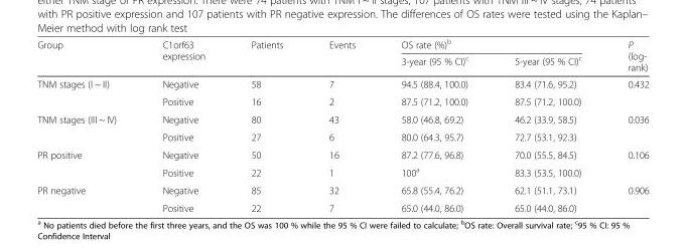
<table><thead><tr><td rowspan="2">Group</td><td rowspan="2">C1orf63 expression</td><td rowspan="2">Patients</td><td rowspan="2">Events</td><td colspan="2">OS rate (%)<sup>b</sup></td><td rowspan="2">P (log- rank)</td></tr><tr><td>3-year (95 % CI)<sup>c</sup></td><td>5-year (95 % CI)<sup>c</sup></td></tr></thead><tbody><tr><td rowspan="2">TNM stages (I ~ II)</td><td>Negative</td><td>58</td><td>7</td><td>94.5 (88.4, 100.0)</td><td>83.4 (71.6, 95.2)</td><td>0.432</td></tr><tr><td>Positive</td><td>16</td><td>2</td><td>87.5 (71.2, 100.0)</td><td>87.5 (71.2, 100.0)</td><td></td></tr><tr><td rowspan="2">TNM stages (III ~ IV)</td><td>Negative</td><td>80</td><td>43</td><td>58.0 (46.8, 69.2)</td><td>46.2 (33.9, 58.5)</td><td>0.036</td></tr><tr><td>Positive</td><td>27</td><td>6</td><td>80.0 (64.3, 95.7)</td><td>72.7 (53.1, 92.3)</td><td></td></tr><tr><td rowspan="2">PR positive</td><td>Negative</td><td>50</td><td>16</td><td>87.2 (77.6, 96.8)</td><td>70.0 (55.5, 84.5)</td><td>0.106</td></tr><tr><td>Positive</td><td>22</td><td>1</td><td>100<sup>a</sup></td><td>83.3 (53.5, 100.0)</td><td></td></tr><tr><td rowspan="2">PR negative</td><td>Negative</td><td>85</td><td>32</td><td>65.8 (55.4, 76.2)</td><td>62.1 (51.1, 73.1)</td><td>0.906</td></tr><tr><td>Positive</td><td>22</td><td>7</td><td>65.0 (44.0, 86.0)</td><td>65.0 (44.0, 86.0)</td><td></td></tr></tbody></table>